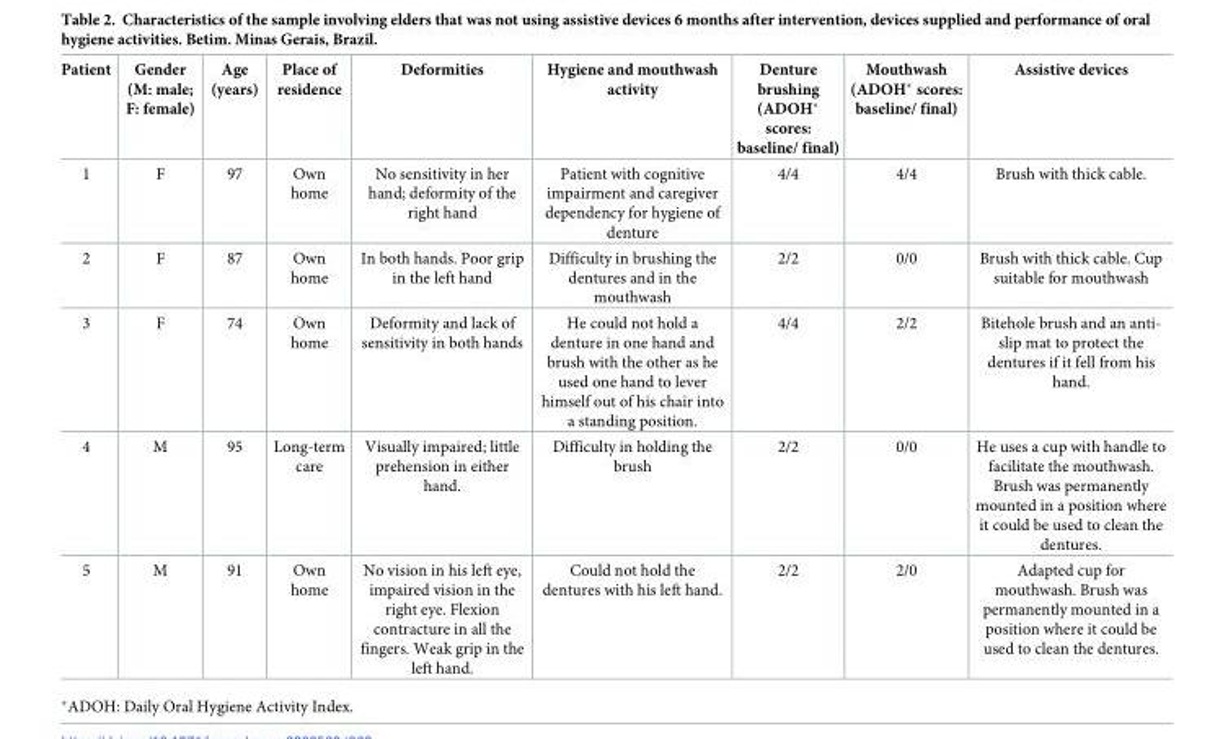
<table><thead><tr><td>Patient</td><td>Gender (M: male; F: female)</td><td>Age (years)</td><td>Place of residence</td><td>Deformities</td><td>Hygiene and mouthwash activity</td><td>Denture brushing (ADOH* scores: baseline/ final)</td><td>Mouthwash (ADOH* scores: baseline/ final)</td><td>Assistive devices</td></tr></thead><tbody><tr><td>1</td><td>F</td><td>97</td><td>Own home</td><td>No sensitivity in her hand; deformity of the right hand</td><td>Patient with cognitive impairment and caregiver dependency for hygiene of denture</td><td>4/4</td><td>4/4</td><td>Brush with thick cable.</td></tr><tr><td>2</td><td>F</td><td>87</td><td>Own home</td><td>In both hands. Poor grip in the left hand</td><td>Difficulty in brushing the dentures and in the mouthwash</td><td>2/2</td><td>0/0</td><td>Brush with thick cable. Cup suitable for mouthwash</td></tr><tr><td>3</td><td>F</td><td>74</td><td>Own home</td><td>Deformity and lack of sensitivity in both hands</td><td>He could not hold a denture in one hand and brush with the other as he used one hand to lever himself out of his chair into a standing position.</td><td>4/4</td><td>2/2</td><td>Bitehole brush and an anti- slip mat to protect the dentures if it fell from his hand.</td></tr><tr><td>4</td><td>M</td><td>95</td><td>Long-term care</td><td>Visually impaired; little prehension in either hand.</td><td>Difficulty in holding the brush</td><td>2/2</td><td>0/0</td><td>He uses a cup with handle to facilitate the mouthwash. Brush was permanently mounted in a position where it could be used to clean the dentures.</td></tr><tr><td>5</td><td>M</td><td>91</td><td>Own home</td><td>No vision in his left eye, impaired vision in the right eye. Flexion contracture in all the fingers. Weak grip in the left hand.</td><td>Could not hold the dentures with his left hand.</td><td>2/2</td><td>2/0</td><td>Adapted cup for mouthwash. Brush was permanently mounted in a position where it could be used to clean the dentures.</td></tr></tbody></table>